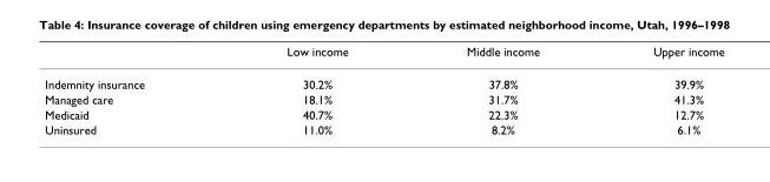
<table><thead><tr><td></td><td>Low income</td><td>Middle income</td><td>Upper income</td></tr></thead><tbody><tr><td>Indemnity insurance</td><td>30.2%</td><td>37.8%</td><td>39.9%</td></tr><tr><td>Managed care</td><td>18.1%</td><td>31.7%</td><td>41.3%</td></tr><tr><td>Medicaid</td><td>40.7%</td><td>22.3%</td><td>12.7%</td></tr><tr><td>Uninsured</td><td>11.0%</td><td>8.2%</td><td>6.1%</td></tr></tbody></table>